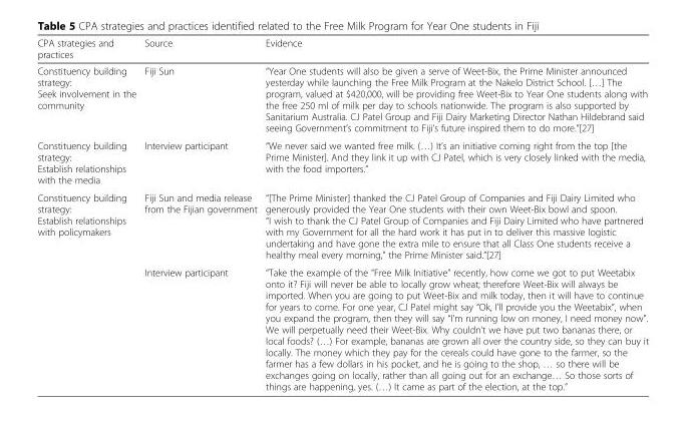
<table><thead><tr><td>CPA strategies and practices</td><td>Source</td><td>Evidence</td></tr></thead><tbody><tr><td>Constituency building strategy: Seek involvement in the community</td><td>Fiji Sun</td><td>“Year One students will also be given a serve of Weet-Bix, the Prime Minister announced yesterday while launching the Free Milk Program at the Nakelo District School. […] The program, valued at $420,000, will be providing free Weet-Bix to Year One students along with the free 250 ml of milk per day to schools nationwide. The program is also supported by Sanitarium Australia. CJ Patel Group and Fiji Dairy Marketing Director Nathan Hildebrand said seeing Government’s commitment to Fiji’s future inspired them to do more.”[27]</td></tr><tr><td>Constituency building strategy: Establish relationships with the media</td><td>Interview participant</td><td>“We never said we wanted free milk. (…) It’s an initiative coming right from the top [the Prime Minister]. And they link it up with CJ Patel, which is very closely linked with the media, with the food importers.”</td></tr><tr><td rowspan="2">Constituency building strategy: Establish relationships with policymakers</td><td>Fiji Sun and media release from the Fijian government</td><td>“[The Prime Minister] thanked the CJ Patel Group of Companies and Fiji Dairy Limited who generously provided the Year One students with their own Weet-Bix bowl and spoon. “I wish to thank the CJ Patel Group of Companies and Fiji Dairy Limited who have partnered with my Government for all the hard work it has put in to deliver this massive logistic undertaking and have gone the extra mile to ensure that all Class One students receive a healthy meal every morning,” the Prime Minister said.”[27]</td></tr><tr><td>Interview participant</td><td>“Take the example of the “Free Milk Initiative” recently, how come we got to put Weetabix onto it? Fiji will never be able to locally grow wheat; therefore Weet-Bix will always be imported. When you are going to put Weet-Bix and milk today, then it will have to continue for years to come. For one year, CJ Patel might say “Ok, I’ll provide you the Weetabix”, when you expand the program, then they will say “I’m running low on money, I need money now”. We will perpetually need their Weet-Bix. Why couldn’t we have put two bananas there, or local foods? (…) For example, bananas are grown all over the country side, so they can buy it locally. The money which they pay for the cereals could have gone to the farmer, so the farmer has a few dollars in his pocket, and he is going to the shop, … so there will be exchanges going on locally, rather than all going out for an exchange… So those sorts of things are happening, yes. (…) It came as part of the election, at the top.”</td></tr></tbody></table>